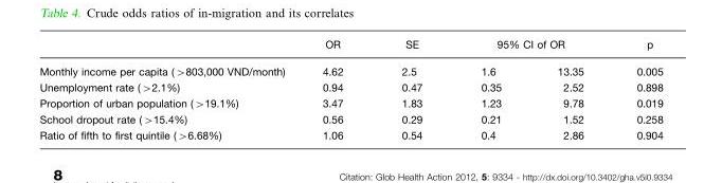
<table><thead><tr><td rowspan="2">Monthly income per capita (&gt;803,000 VND/month)</td><td rowspan="2">OR 4.62</td><td rowspan="2">SE 2.5</td><td colspan="2">95% CI of OR</td><td rowspan="2">p 0.005</td></tr><tr><td>1.6</td><td>13.35</td></tr></thead><tbody><tr><td>Unemployment rate (&gt;2.1%)</td><td>0.94</td><td>0.47</td><td>0.35</td><td>2.52</td><td>0.898</td></tr><tr><td>Proportion of urban population (&gt;19.1%)</td><td>3.47</td><td>1.83</td><td>1.23</td><td>9.78</td><td>0.019</td></tr><tr><td>School dropout rate (&gt;15.4%)</td><td>0.56</td><td>0.29</td><td>0.21</td><td>1.52</td><td>0.258</td></tr><tr><td>Ratio of fifth to first quintile (&gt;6.68%)</td><td>1.06</td><td>0.54</td><td>0.4</td><td>2.86</td><td>0.904</td></tr></tbody></table>